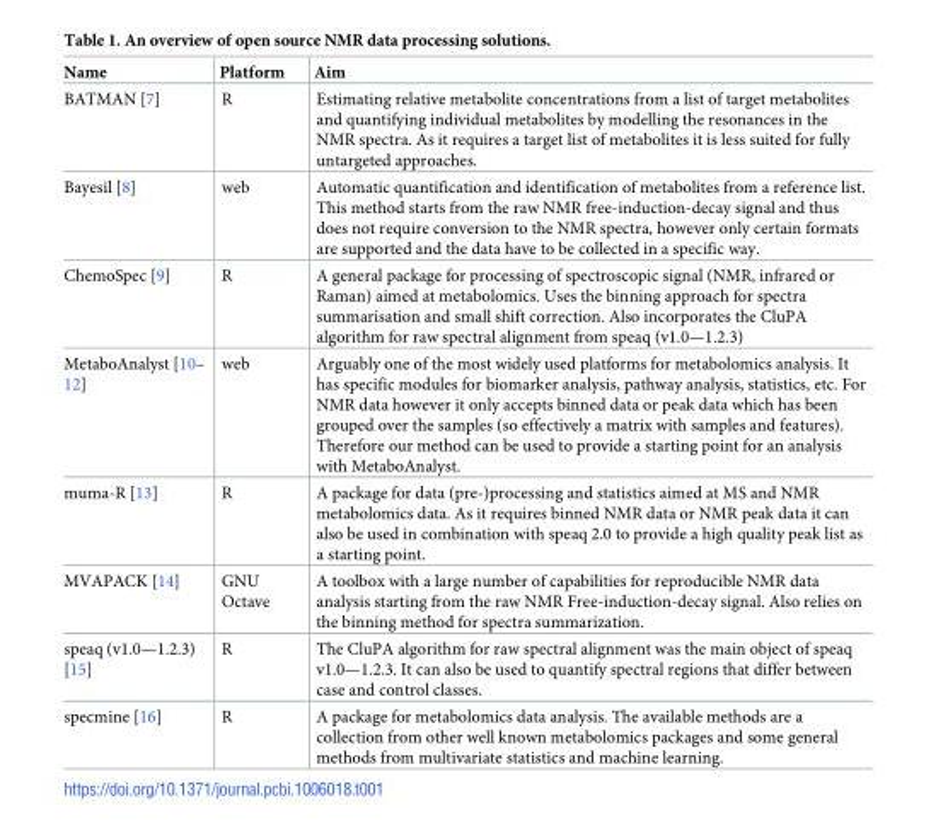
<table><thead><tr><td>Name</td><td>Platform</td><td>Aim</td></tr></thead><tbody><tr><td>BATMAN [7]</td><td>R</td><td>Estimating relative metabolite concentrations from a list of target metabolites and quantifying individual metabolites by modelling the resonances in the NMR spectra. As it requires a target list of metabolites it is less suited for fully untargeted approaches.</td></tr><tr><td>Bayesil [8]</td><td>web</td><td>Automatic quantification and identification of metabolites from a reference list. This method starts from the raw NMR free-induction-decay signal and thus does not require conversion to the NMR spectra, however only certain formats are supported and the data have to be collected in a specific way.</td></tr><tr><td>ChemoSpec [9]</td><td>R</td><td>A general package for processing of spectroscopic signal (NMR, infrared or Raman) aimed at metabolomics. Uses the binning approach for spectra summarisation and small shift correction. Also incorporates the CluPA algorithm for raw spectral alignment from speaq (v1.0—1.2.3)</td></tr><tr><td>MetaboAnalyst [10– 12]</td><td>web</td><td>Arguably one of the most widely used platforms for metabolomics analysis. It has specific modules for biomarker analysis, pathway analysis, statistics, etc. For NMR data however it only accepts binned data or peak data which has been grouped over the samples (so effectively a matrix with samples and features). Therefore our method can be used to provide a starting point for an analysis with MetaboAnalyst.</td></tr><tr><td>muma-R [13]</td><td>R</td><td>A package for data (pre-)processing and statistics aimed at MS and NMR metabolomics data. As it requires binned NMR data or NMR peak data it can also be used in combination with speaq 2.0 to provide a high quality peak list as a starting point.</td></tr><tr><td>MVAPACK [14]</td><td>GNU Octave</td><td>A toolbox with a large number of capabilities for reproducible NMR data analysis starting from the raw NMR Free-induction-decay signal. Also relies on the binning method for spectra summarization.</td></tr><tr><td>speaq (v1.0—1.2.3) [15]</td><td>R</td><td>The CluPA algorithm for raw spectral alignment was the main object of speaq v1.0—1.2.3. It can also be used to quantify spectral regions that differ between case and control classes.</td></tr><tr><td>specmine [16]</td><td>R</td><td>A package for metabolomics data analysis. The available methods are a collection from other well known metabolomics packages and some general methods from multivariate statistics and machine learning.</td></tr></tbody></table>